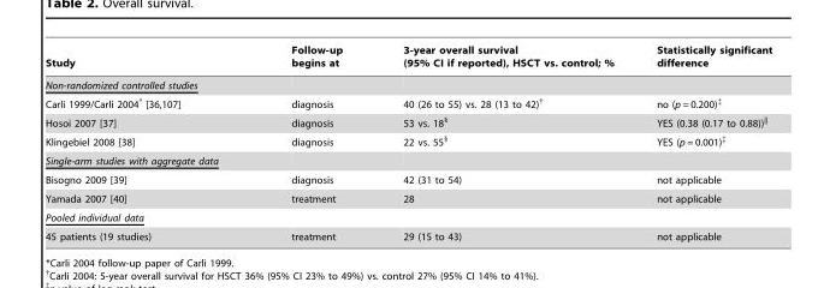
<table><thead><tr><td>Study</td><td>Follow-up begins at</td><td>3-year overall survival (95% CI if reported), HSCT vs. control; %</td><td>Statistically significant difference</td></tr></thead><tbody><tr><td colspan="4">Non-randomized controlled studies</td></tr><tr><td>Carli 1999/Carli 2004* [36,107]</td><td>diagnosis</td><td>40 (26 to 55) vs. 28 (13 to 42)†</td><td>no (p = 0.200)‡</td></tr><tr><td>Hosoi 2007 [37]</td><td>diagnosis</td><td>53 vs. 18§</td><td>YES (0.38 (0.17 to 0.88))||</td></tr><tr><td>Klingebiel 2008 [38]</td><td>diagnosis</td><td>22 vs. 55§</td><td>YES (p = 0.001)‡</td></tr><tr><td colspan="4">Single-arm studies with aggregate data</td></tr><tr><td>Bisogno 2009 [39]</td><td>diagnosis</td><td>42 (31 to 54)</td><td>not applicable</td></tr><tr><td>Yamada 2007 [40]</td><td>treatment</td><td>28</td><td>not applicable</td></tr><tr><td colspan="4">Pooled individual data</td></tr><tr><td>45 patients (19 studies)</td><td>treatment</td><td>29 (15 to 43)</td><td>not applicable</td></tr></tbody></table>